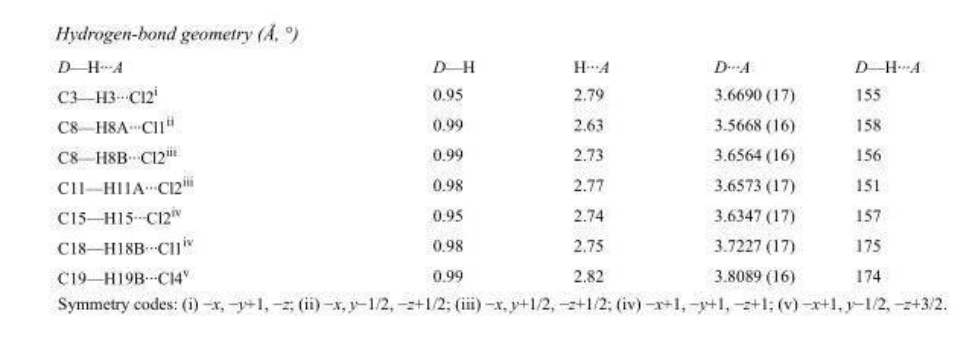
<table><tbody><tr><td>D—H···A</td><td>D—H</td><td>H···A</td><td>D···A</td><td>D—H···A</td></tr><tr><td>C3—H3···Cl2<sup>i</sup></td><td>0.95</td><td>2.79</td><td>3.6690 (17)</td><td>155</td></tr><tr><td>C8—H8A···Cl1<sup>ii</sup></td><td>0.99</td><td>2.63</td><td>3.5668 (16)</td><td>158</td></tr><tr><td>C8—H8B···Cl2<sup>iii</sup></td><td>0.99</td><td>2.73</td><td>3.6564 (16)</td><td>156</td></tr><tr><td>C11—H11A···Cl2<sup>iii</sup></td><td>0.98</td><td>2.77</td><td>3.6573 (17)</td><td>151</td></tr><tr><td>C15—H15···Cl2<sup>iv</sup></td><td>0.95</td><td>2.74</td><td>3.6347 (17)</td><td>157</td></tr><tr><td>C18—H18B···Cl1<sup>iv</sup></td><td>0.98</td><td>2.75</td><td>3.7227 (17)</td><td>175</td></tr><tr><td>C19—H19B···Cl4<sup>v</sup></td><td>0.99</td><td>2.82</td><td>3.8089 (16)</td><td>174</td></tr></tbody></table>